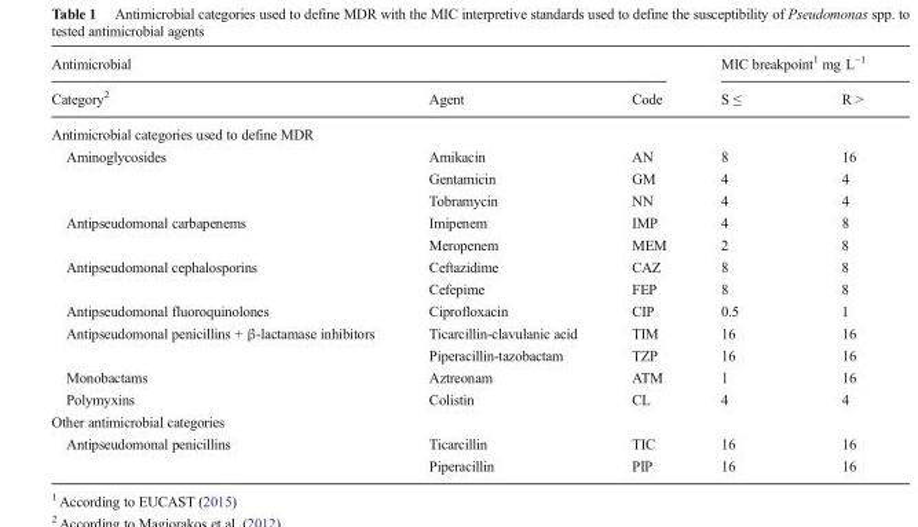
<table><thead><tr><td colspan="3">Antimicrobial</td><td colspan="2">MIC breakpoint<sup>1</sup> mg L<sup>−1</sup></td></tr><tr><td>Category<sup>2</sup></td><td>Agent</td><td>Code</td><td>S ≤</td><td>R &gt;</td></tr></thead><tbody><tr><td colspan="5">Antimicrobial categories used to define MDR</td></tr><tr><td rowspan="3">Aminoglycosides</td><td>Amikacin</td><td>AN</td><td>8</td><td>16</td></tr><tr><td>Gentamicin</td><td>GM</td><td>4</td><td>4</td></tr><tr><td>Tobramycin</td><td>NN</td><td>4</td><td>4</td></tr><tr><td rowspan="2">Antipseudomonal carbapenems</td><td>Imipenem</td><td>IMP</td><td>4</td><td>8</td></tr><tr><td>Meropenem</td><td>MEM</td><td>2</td><td>8</td></tr><tr><td rowspan="2">Antipseudomonal cephalosporins</td><td>Ceftazidime</td><td>CAZ</td><td>8</td><td>8</td></tr><tr><td>Cefepime</td><td>FEP</td><td>8</td><td>8</td></tr><tr><td>Antipseudomonal fluoroquinolones</td><td>Ciprofloxacin</td><td>CIP</td><td>0.5</td><td>1</td></tr><tr><td rowspan="2">Antipseudomonal penicillins + β-lactamase inhibitors</td><td>Ticarcillin-clavulanic acid</td><td>TIM</td><td>16</td><td>16</td></tr><tr><td>Piperacillin-tazobactam</td><td>TZP</td><td>16</td><td>16</td></tr><tr><td>Monobactams</td><td>Aztreonam</td><td>ATM</td><td>1</td><td>16</td></tr><tr><td>Polymyxins</td><td>Colistin</td><td>CL</td><td>4</td><td>4</td></tr><tr><td colspan="5">Other antimicrobial categories</td></tr><tr><td rowspan="2">Antipseudomonal penicillins</td><td>Ticarcillin</td><td>TIC</td><td>16</td><td>16</td></tr><tr><td>Piperacillin</td><td>PIP</td><td>16</td><td>16</td></tr></tbody></table>